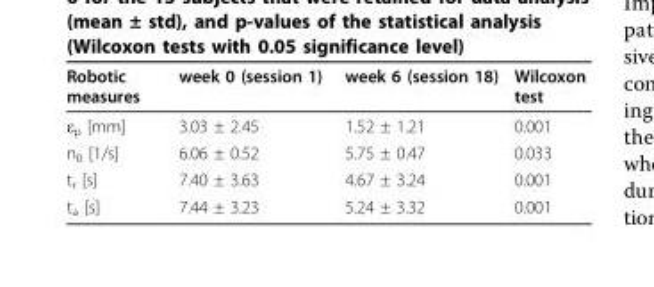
<table><thead><tr><td>Robotic measures</td><td>week 0 (session 1)</td><td>week 6 (session 18)</td><td>Wilcoxon test</td></tr></thead><tbody><tr><td>ε<sub>p</sub> [mm]</td><td>3.03 ± 2.45</td><td>1.52 ± 1.21</td><td>0.001</td></tr><tr><td>n<sub>0</sub> [1/s]</td><td>6.06 ± 0.52</td><td>5.75 ± 0.47</td><td>0.033</td></tr><tr><td>t<sub>r</sub> [s]</td><td>7.40 ± 3.63</td><td>4.67 ± 3.24</td><td>0.001</td></tr><tr><td>t<sub>a</sub> [s]</td><td>7.44 ± 3.23</td><td>5.24 ± 3.32</td><td>0.001</td></tr></tbody></table>